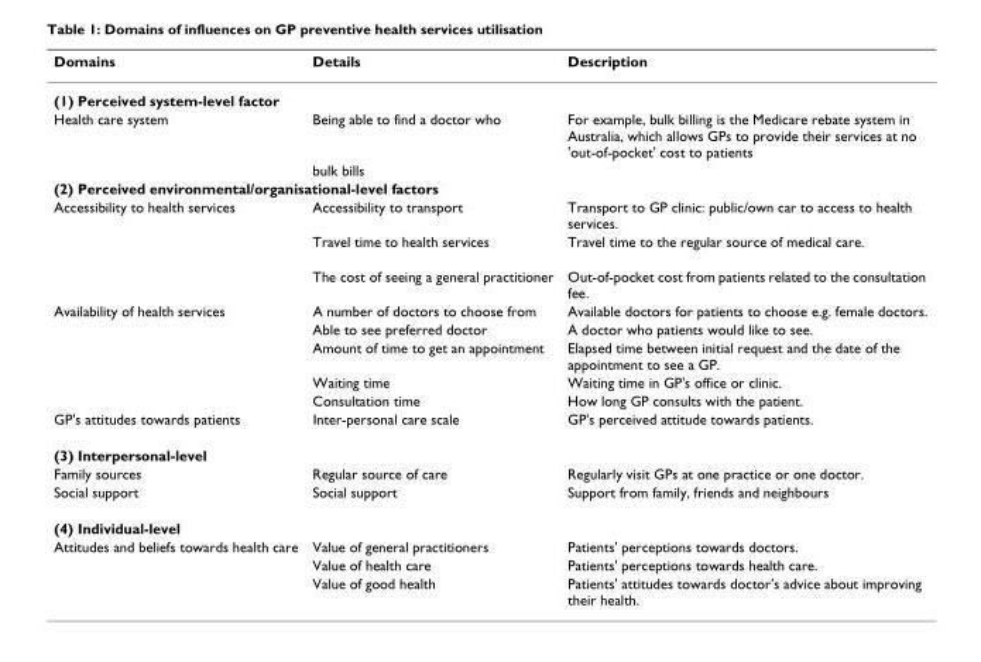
<table><thead><tr><td>Domains</td><td>Details</td><td>Description</td></tr></thead><tbody><tr><td colspan="3">(1) Perceived system-level factor</td></tr><tr><td rowspan="2">Health care system</td><td>Being able to find a doctor who</td><td>For example, bulk billing is the Medicare rebate system in Australia, which allows GPs to provide their services at no &#x27;out-of-pocket&#x27; cost to patients</td></tr><tr><td>bulk bills</td><td></td></tr><tr><td colspan="3">(2) Perceived environmental/organisational-level factors</td></tr><tr><td rowspan="3">Accessibility to health services</td><td>Accessibility to transport</td><td>Transport to GP clinic: public/own car to access to health services.</td></tr><tr><td>Travel time to health services</td><td>Travel time to the regular source of medical care.</td></tr><tr><td>The cost of seeing a general practitioner</td><td>Out-of-pocket cost from patients related to the consultation fee.</td></tr><tr><td rowspan="5">Availability of health services</td><td>A number of doctors to choose from</td><td>Available doctors for patients to choose e.g. female doctors.</td></tr><tr><td>Able to see preferred doctor</td><td>A doctor who patients would like to see.</td></tr><tr><td>Amount of time to get an appointment</td><td>Elapsed time between initial request and the date of the appointment to see a GP.</td></tr><tr><td>Waiting time</td><td>Waiting time in GP&#x27;s office or clinic.</td></tr><tr><td>Consultation time</td><td>How long GP consults with the patient.</td></tr><tr><td>GP&#x27;s attitudes towards patients</td><td>Inter-personal care scale</td><td>GP&#x27;s perceived attitude towards patients.</td></tr><tr><td colspan="3">(3) Interpersonal-level</td></tr><tr><td>Family sources</td><td>Regular source of care</td><td>Regularly visit GPs at one practice or one doctor.</td></tr><tr><td>Social support</td><td>Social support</td><td>Support from family, friends and neighbours</td></tr><tr><td colspan="3">(4) Individual-level</td></tr><tr><td rowspan="3">Attitudes and beliefs towards health care</td><td>Value of general practitioners</td><td>Patients&#x27; perceptions towards doctors.</td></tr><tr><td>Value of health care</td><td>Patients&#x27; perceptions towards health care.</td></tr><tr><td>Value of good health</td><td>Patients&#x27; attitudes towards doctor&#x27;s advice about improving their health.</td></tr></tbody></table>